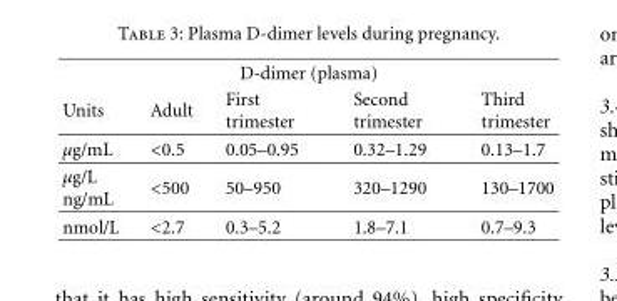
<table><thead><tr><td colspan="5">D-dimer (plasma)</td></tr><tr><td>Units</td><td>Adult</td><td>First trimester</td><td>Second trimester</td><td>Third trimester</td></tr></thead><tbody><tr><td>µg/mL</td><td>&lt;0.5</td><td>0.05–0.95</td><td>0.32–1.29</td><td>0.13–1.7</td></tr><tr><td>µg/L ng/mL</td><td>&lt;500</td><td>50–950</td><td>320–1290</td><td>130–1700</td></tr><tr><td>nmol/L</td><td>&lt;2.7</td><td>0.3–5.2</td><td>1.8–7.1</td><td>0.7–9.3</td></tr></tbody></table>